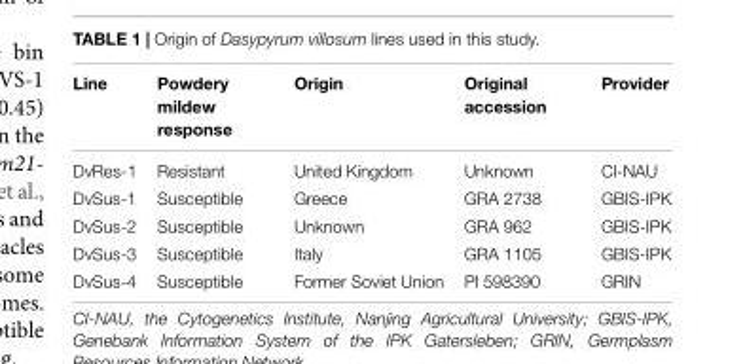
<table><thead><tr><td>Line</td><td>Powdery mildew response</td><td>Origin</td><td>Original accession</td><td>Provider</td></tr></thead><tbody><tr><td>DvRes-1</td><td>Resistant</td><td>United Kingdom</td><td>Unknown</td><td>CI-NAU</td></tr><tr><td>DvSus-1</td><td>Susceptible</td><td>Greece</td><td>GRA 2738</td><td>GBIS-IPK</td></tr><tr><td>DvSus-2</td><td>Susceptible</td><td>Unknown</td><td>GRA 962</td><td>GBIS-IPK</td></tr><tr><td>DvSus-3</td><td>Susceptible</td><td>Italy</td><td>GRA 1105</td><td>GBIS-IPK</td></tr><tr><td>DvSus-4</td><td>Susceptible</td><td>Former Soviet Union</td><td>PI 598390</td><td>GRIN</td></tr></tbody></table>